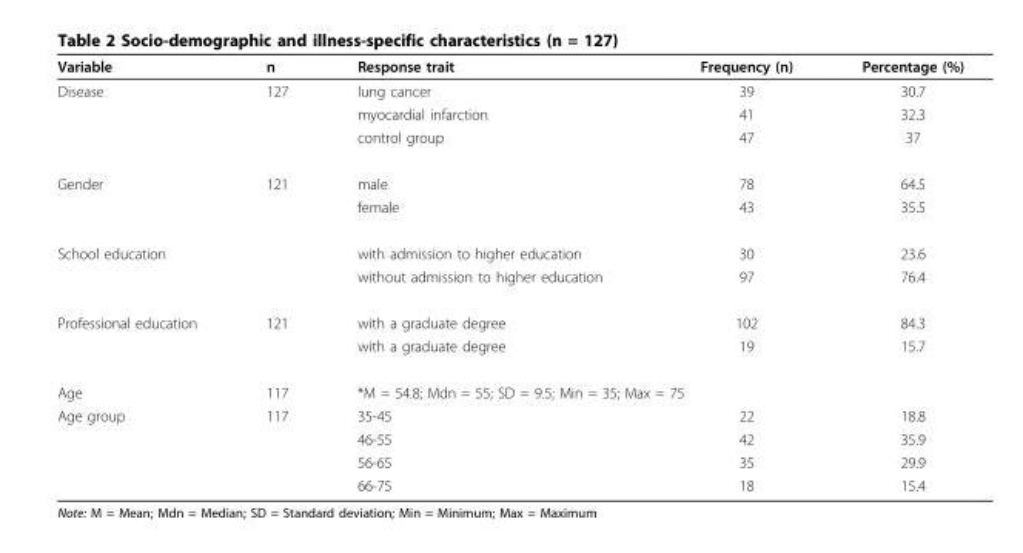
<table><thead><tr><td>Variable</td><td>n</td><td>Response trait</td><td>Frequency (n)</td><td>Percentage (%)</td></tr></thead><tbody><tr><td rowspan="3">Disease</td><td>127</td><td>lung cancer</td><td>39</td><td>30.7</td></tr><tr><td></td><td>myocardial infarction</td><td>41</td><td>32.3</td></tr><tr><td></td><td>control group</td><td>47</td><td>37</td></tr><tr><td rowspan="2">Gender</td><td>121</td><td>male</td><td>78</td><td>64.5</td></tr><tr><td></td><td>female</td><td>43</td><td>35.5</td></tr><tr><td rowspan="2">School education</td><td></td><td>with admission to higher education</td><td>30</td><td>23.6</td></tr><tr><td></td><td>without admission to higher education</td><td>97</td><td>76.4</td></tr><tr><td rowspan="2">Professional education</td><td>121</td><td>with a graduate degree</td><td>102</td><td>84.3</td></tr><tr><td></td><td>with a graduate degree</td><td>19</td><td>15.7</td></tr><tr><td>Age</td><td>117</td><td colspan="3">*M = 54.8; Mdn = 55; SD = 9.5; Min = 35; Max = 75</td></tr><tr><td rowspan="4">Age group</td><td>117</td><td>35-45</td><td>22</td><td>18.8</td></tr><tr><td></td><td>46-55</td><td>42</td><td>35.9</td></tr><tr><td></td><td>56-65</td><td>35</td><td>29.9</td></tr><tr><td></td><td>66-75</td><td>18</td><td>15.4</td></tr></tbody></table>